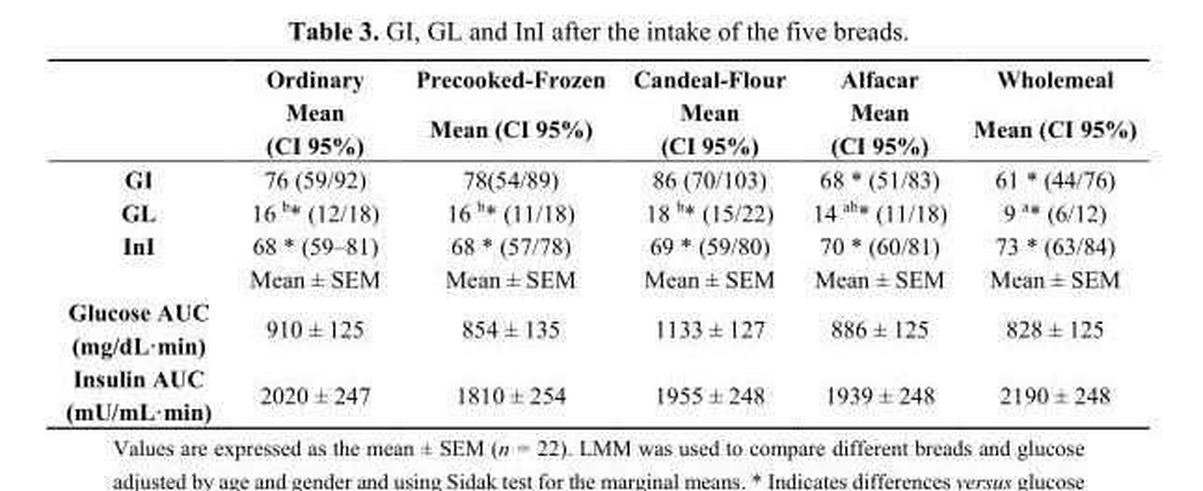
<table><thead><tr><td rowspan="2"></td><td rowspan="2">Ordinary Mean (CI 95%)</td><td rowspan="2">Precooked-Frozen Mean (CI 95%)</td><td rowspan="2">Candeal-Flour Mean (CI 95%)</td><td rowspan="2">Alfacar Mean (CI 95%)</td><td rowspan="2">Wholemeal Mean (CI 95%)</td></tr><tr></tr></thead><tbody><tr><td>GI</td><td>76 (59/92)</td><td>78(54/89)</td><td>86 (70/103)</td><td>68 * (51/83)</td><td>61 * (44/76)</td></tr><tr><td>GL</td><td>16 <sup>b</sup>* (12/18)</td><td>16 <sup>b</sup>* (11/18)</td><td>18 <sup>b</sup>* (15/22)</td><td>14 <sup>ab</sup>* (11/18)</td><td>9 <sup>a</sup>* (6/12)</td></tr><tr><td rowspan="2">InI</td><td>68 * (59–81)</td><td>68 * (57/78)</td><td>69 * (59/80)</td><td>70 * (60/81)</td><td>73 * (63/84)</td></tr><tr><td>Mean ± SEM</td><td>Mean ± SEM</td><td>Mean ± SEM</td><td>Mean ± SEM</td><td>Mean ± SEM</td></tr><tr><td>Glucose AUC (mg/dL·min)</td><td>910 ± 125</td><td>854 ± 135</td><td>1133 ± 127</td><td>886 ± 125</td><td>828 ± 125</td></tr><tr><td>Insulin AUC (mU/mL·min)</td><td>2020 ± 247</td><td>1810 ± 254</td><td>1955 ± 248</td><td>1939 ± 248</td><td>2190 ± 248</td></tr></tbody></table>